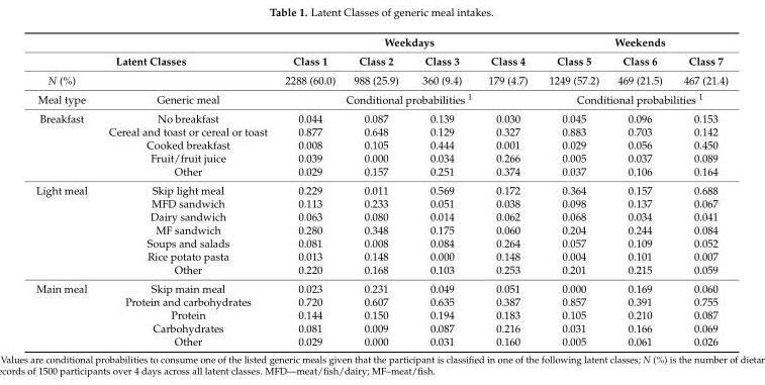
<table><thead><tr><td></td><td></td><td colspan="4">Weekdays</td><td colspan="3">Weekends</td></tr><tr><td colspan="2">Latent Classes</td><td>Class 1</td><td>Class 2</td><td>Class 3</td><td>Class 4</td><td>Class 5</td><td>Class 6</td><td>Class 7</td></tr></thead><tbody><tr><td>N (%)</td><td></td><td>2288 (60.0)</td><td>988 (25.9)</td><td>360 (9.4)</td><td>179 (4.7)</td><td>1249 (57.2)</td><td>469 (21.5)</td><td>467 (21.4)</td></tr><tr><td>Meal type</td><td>Generic meal</td><td colspan="4">Conditional probabilities <sup>1</sup></td><td colspan="3">Conditional probabilities <sup>1</sup></td></tr><tr><td rowspan="5">Breakfast</td><td>No breakfast</td><td>0.044</td><td>0.087</td><td>0.139</td><td>0.030</td><td>0.045</td><td>0.096</td><td>0.153</td></tr><tr><td>Cereal and toast or cereal or toast</td><td>0.877</td><td>0.648</td><td>0.129</td><td>0.327</td><td>0.883</td><td>0.703</td><td>0.142</td></tr><tr><td>Cooked breakfast</td><td>0.008</td><td>0.105</td><td>0.444</td><td>0.001</td><td>0.029</td><td>0.056</td><td>0.450</td></tr><tr><td>Fruit/fruit juice</td><td>0.039</td><td>0.000</td><td>0.034</td><td>0.266</td><td>0.005</td><td>0.037</td><td>0.089</td></tr><tr><td>Other</td><td>0.029</td><td>0.157</td><td>0.251</td><td>0.374</td><td>0.037</td><td>0.106</td><td>0.164</td></tr><tr><td rowspan="7">Light meal</td><td>Skip light meal</td><td>0.229</td><td>0.011</td><td>0.569</td><td>0.172</td><td>0.364</td><td>0.157</td><td>0.688</td></tr><tr><td>MFD sandwich</td><td>0.113</td><td>0.233</td><td>0.051</td><td>0.038</td><td>0.098</td><td>0.137</td><td>0.067</td></tr><tr><td>Dairy sandwich</td><td>0.063</td><td>0.080</td><td>0.014</td><td>0.062</td><td>0.068</td><td>0.034</td><td>0.041</td></tr><tr><td>MF sandwich</td><td>0.280</td><td>0.348</td><td>0.175</td><td>0.060</td><td>0.204</td><td>0.244</td><td>0.084</td></tr><tr><td>Soups and salads</td><td>0.081</td><td>0.008</td><td>0.084</td><td>0.264</td><td>0.057</td><td>0.109</td><td>0.052</td></tr><tr><td>Rice potato pasta</td><td>0.013</td><td>0.148</td><td>0.000</td><td>0.148</td><td>0.004</td><td>0.101</td><td>0.007</td></tr><tr><td>Other</td><td>0.220</td><td>0.168</td><td>0.103</td><td>0.253</td><td>0.201</td><td>0.215</td><td>0.059</td></tr><tr><td rowspan="5">Main meal</td><td>Skip main meal</td><td>0.023</td><td>0.231</td><td>0.049</td><td>0.051</td><td>0.000</td><td>0.169</td><td>0.060</td></tr><tr><td>Protein and carbohydrates</td><td>0.720</td><td>0.607</td><td>0.635</td><td>0.387</td><td>0.857</td><td>0.391</td><td>0.755</td></tr><tr><td>Protein</td><td>0.144</td><td>0.150</td><td>0.194</td><td>0.183</td><td>0.105</td><td>0.210</td><td>0.087</td></tr><tr><td>Carbohydrates</td><td>0.081</td><td>0.009</td><td>0.087</td><td>0.216</td><td>0.031</td><td>0.166</td><td>0.069</td></tr><tr><td>Other</td><td>0.029</td><td>0.000</td><td>0.031</td><td>0.160</td><td>0.005</td><td>0.061</td><td>0.026</td></tr></tbody></table>